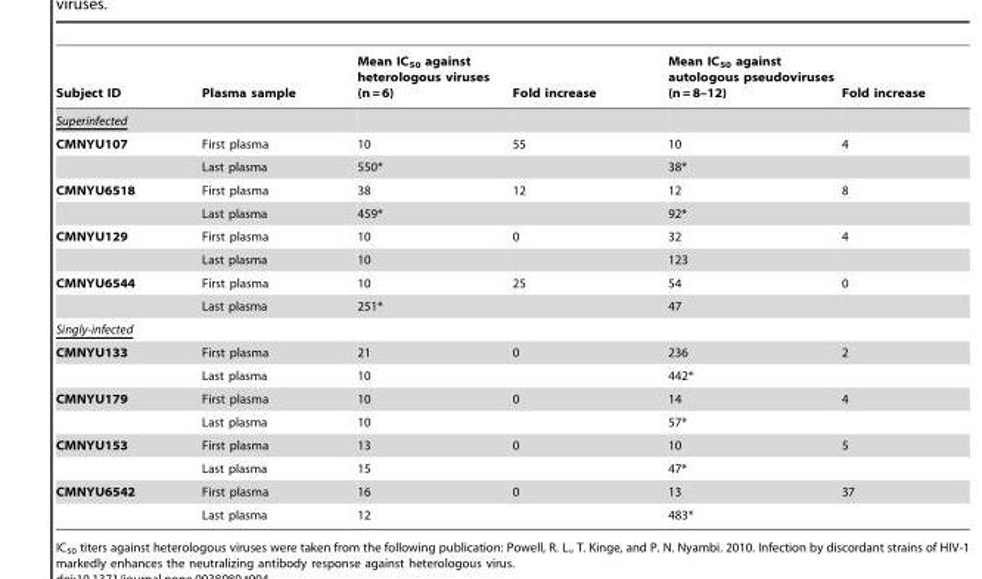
<table><thead><tr><td>Subject ID</td><td>Plasma sample</td><td>Mean IC<sub>50</sub> against heterologous viruses (n = 6)</td><td>Fold increase</td><td>Mean IC<sub>50</sub> against autologous pseudoviruses (n = 8–12)</td><td>Fold increase</td></tr></thead><tbody><tr><td colspan="6">Superinfected</td></tr><tr><td rowspan="2">CMNYU107</td><td>First plasma</td><td>10</td><td>55</td><td>10</td><td>4</td></tr><tr><td>Last plasma</td><td>550*</td><td></td><td>38*</td><td></td></tr><tr><td rowspan="2">CMNYU6518</td><td>First plasma</td><td>38</td><td>12</td><td>12</td><td>8</td></tr><tr><td>Last plasma</td><td>459*</td><td></td><td>92*</td><td></td></tr><tr><td rowspan="2">CMNYU129</td><td>First plasma</td><td>10</td><td>0</td><td>32</td><td>4</td></tr><tr><td>Last plasma</td><td>10</td><td></td><td>123</td><td></td></tr><tr><td rowspan="2">CMNYU6544</td><td>First plasma</td><td>10</td><td>25</td><td>54</td><td>0</td></tr><tr><td>Last plasma</td><td>251*</td><td></td><td>47</td><td></td></tr><tr><td colspan="6">Singly-infected</td></tr><tr><td rowspan="2">CMNYU133</td><td>First plasma</td><td>21</td><td>0</td><td>236</td><td>2</td></tr><tr><td>Last plasma</td><td>10</td><td></td><td>442*</td><td></td></tr><tr><td rowspan="2">CMNYU179</td><td>First plasma</td><td>10</td><td>0</td><td>14</td><td>4</td></tr><tr><td>Last plasma</td><td>10</td><td></td><td>57*</td><td></td></tr><tr><td rowspan="2">CMNYU153</td><td>First plasma</td><td>13</td><td>0</td><td>10</td><td>5</td></tr><tr><td>Last plasma</td><td>15</td><td></td><td>47*</td><td></td></tr><tr><td rowspan="2">CMNYU6542</td><td>First plasma</td><td>16</td><td>0</td><td>13</td><td>37</td></tr><tr><td>Last plasma</td><td>12</td><td></td><td>483*</td><td></td></tr></tbody></table>